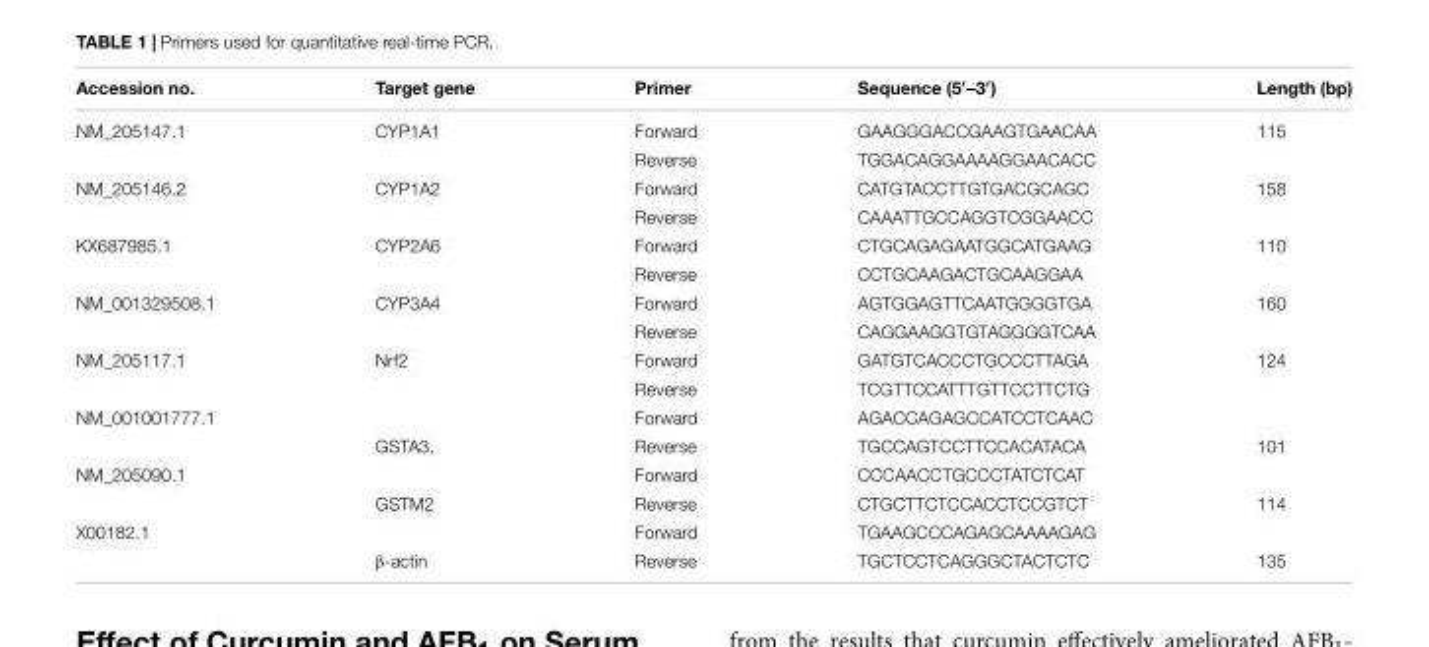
<table><thead><tr><td>Accession no.</td><td>Target gene</td><td>Primer</td><td>Sequence (5′–3′)</td><td>Length (bp)</td></tr></thead><tbody><tr><td rowspan="2">NM_205147.1</td><td>CYP1A1</td><td>Forward</td><td>GAAGGGACCGAAGTGAACAA</td><td>115</td></tr><tr><td></td><td>Reverse</td><td>TGGACAGGAAAAGGAACACC</td><td></td></tr><tr><td rowspan="2">NM_205146.2</td><td>CYP1A2</td><td>Forward</td><td>CATGTACCTTGTGACGCAGC</td><td>158</td></tr><tr><td></td><td>Reverse</td><td>CAAATTGCCAGGTCGGAACC</td><td></td></tr><tr><td rowspan="2">KX687985.1</td><td>CYP2A6</td><td>Forward</td><td>CTGCAGAGAATGGCATGAAG</td><td>110</td></tr><tr><td></td><td>Reverse</td><td>CCTGCAAGACTGCAAGGAA</td><td></td></tr><tr><td rowspan="2">NM_001329508.1</td><td>CYP3A4</td><td>Forward</td><td>AGTGGAGTTCAATGGGGTGA</td><td>160</td></tr><tr><td></td><td>Reverse</td><td>CAGGAAGGTGTAGGGGTCAA</td><td></td></tr><tr><td rowspan="2">NM_205117.1</td><td>Nrf2</td><td>Forward</td><td>GATGTCACCCTGCCCTTAGA</td><td>124</td></tr><tr><td></td><td>Reverse</td><td>TCGTTCCATTTGTTCCTTCTG</td><td></td></tr><tr><td rowspan="2">NM_001001777.1</td><td></td><td>Forward</td><td>AGACCAGAGCCATCCTCAAC</td><td></td></tr><tr><td>GSTA3,</td><td>Reverse</td><td>TGCCAGTCCTTCCACATACA</td><td>101</td></tr><tr><td rowspan="2">NM_205090.1</td><td></td><td>Forward</td><td>CCCAACCTGCCCTATCTCAT</td><td></td></tr><tr><td>GSTM2</td><td>Reverse</td><td>CTGCTTCTCCACCTCCGTCT</td><td>114</td></tr><tr><td rowspan="2">X00182.1</td><td></td><td>Forward</td><td>TGAAGCCCAGAGCAAAAGAG</td><td></td></tr><tr><td>β-actin</td><td>Reverse</td><td>TGCTCCTCAGGGCTACTCTC</td><td>135</td></tr></tbody></table>